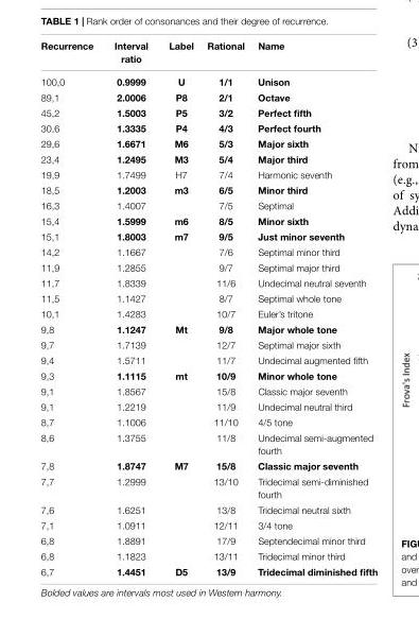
<table><thead><tr><td>Recurrence</td><td>Interval ratio</td><td>Label</td><td>Rational</td><td>Name</td></tr></thead><tbody><tr><td>100,0</td><td>0.9999</td><td>U</td><td>1/1</td><td>Unison</td></tr><tr><td>89,1</td><td>2.0006</td><td>P8</td><td>2/1</td><td>Octave</td></tr><tr><td>45,2</td><td>1.5003</td><td>P5</td><td>3/2</td><td>Perfect fifth</td></tr><tr><td>30,6</td><td>1.3335</td><td>P4</td><td>4/3</td><td>Perfect fourth</td></tr><tr><td>29,6</td><td>1.6671</td><td>M6</td><td>5/3</td><td>Major sixth</td></tr><tr><td>23,4</td><td>1.2495</td><td>M3</td><td>5/4</td><td>Major third</td></tr><tr><td>19,9</td><td>1.7499</td><td>H7</td><td>7/4</td><td>Harmonic seventh</td></tr><tr><td>18,5</td><td>1.2003</td><td>m3</td><td>6/5</td><td>Minor third</td></tr><tr><td>16,3</td><td>1.4007</td><td></td><td>7/5</td><td>Septimal</td></tr><tr><td>15,4</td><td>1.5999</td><td>m6</td><td>8/5</td><td>Minor sixth</td></tr><tr><td>15,1</td><td>1.8003</td><td>m7</td><td>9/5</td><td>Just minor seventh</td></tr><tr><td>14,2</td><td>1.1667</td><td></td><td>7/6</td><td>Septimal minor third</td></tr><tr><td>11,9</td><td>1.2855</td><td></td><td>9/7</td><td>Septimal major third</td></tr><tr><td>11,7</td><td>1.8339</td><td></td><td>11/6</td><td>Undecimal neutral seventh</td></tr><tr><td>11,5</td><td>1.1427</td><td></td><td>8/7</td><td>Septimal whole tone</td></tr><tr><td>10,1</td><td>1.4283</td><td></td><td>10/7</td><td>Euler’s tritone</td></tr><tr><td>9,8</td><td>1.1247</td><td>Mt</td><td>9/8</td><td>Major whole tone</td></tr><tr><td>9,7</td><td>1.7139</td><td></td><td>12/7</td><td>Septimal major sixth</td></tr><tr><td>9,4</td><td>1.5711</td><td></td><td>11/7</td><td>Undecimal augmented fifth</td></tr><tr><td>9,3</td><td>1.1115</td><td>mt</td><td>10/9</td><td>Minor whole tone</td></tr><tr><td>9,1</td><td>1.8567</td><td></td><td>15/8</td><td>Classic major seventh</td></tr><tr><td>9,1</td><td>1.2219</td><td></td><td>11/9</td><td>Undecimal neutral third</td></tr><tr><td>8,7</td><td>1.1006</td><td></td><td>11/10</td><td>4/5 tone</td></tr><tr><td>8,6</td><td>1.3755</td><td></td><td>11/8</td><td>Undecimal semi-augmented fourth</td></tr><tr><td>7,8</td><td>1.8747</td><td>M7</td><td>15/8</td><td>Classic major seventh</td></tr><tr><td>7,7</td><td>1.2999</td><td></td><td>13/10</td><td>Tridecimal semi-diminished fourth</td></tr><tr><td>7,6</td><td>1.6251</td><td></td><td>13/8</td><td>Tridecimal neutral sixth</td></tr><tr><td>7,1</td><td>1.0911</td><td></td><td>12/11</td><td>3/4 tone</td></tr><tr><td>6,8</td><td>1.8891</td><td></td><td>17/9</td><td>Septendecimal minor third</td></tr><tr><td>6,8</td><td>1.1823</td><td></td><td>13/11</td><td>Tridecimal minor third</td></tr><tr><td>6,7</td><td>1.4451</td><td>D5</td><td>13/9</td><td>Tridecimal diminished fifth</td></tr></tbody></table>